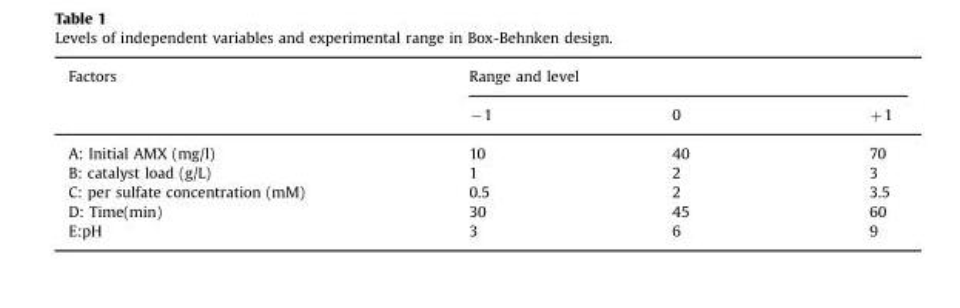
<table><thead><tr><td rowspan="2">Factors</td><td colspan="3">Range and level</td></tr><tr><td>−1</td><td>0</td><td>+1</td></tr></thead><tbody><tr><td>A: Initial AMX (mg/l)</td><td>10</td><td>40</td><td>70</td></tr><tr><td>B: catalyst load (g/L)</td><td>1</td><td>2</td><td>3</td></tr><tr><td>C: per sulfate concentration (mM)</td><td>0.5</td><td>2</td><td>3.5</td></tr><tr><td>D: Time(min)</td><td>30</td><td>45</td><td>60</td></tr><tr><td>E:pH</td><td>3</td><td>6</td><td>9</td></tr></tbody></table>